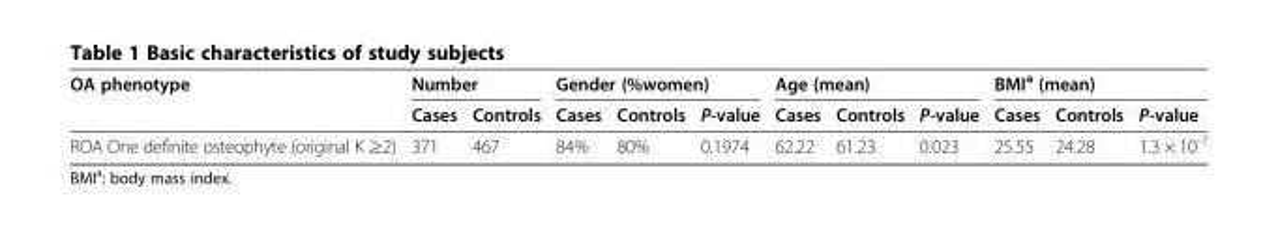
<table><thead><tr><td rowspan="2">OA phenotype</td><td colspan="2">Number</td><td colspan="3">Gender (%women)</td><td colspan="3">Age (mean)</td><td colspan="3">BMI<sup>a</sup> (mean)</td></tr><tr><td>Cases</td><td>Controls</td><td>Cases</td><td>Controls</td><td>P-value</td><td>Cases</td><td>Controls</td><td>P-value</td><td>Cases</td><td>Controls</td><td>P-value</td></tr></thead><tbody><tr><td>ROA One definite osteophyte (original K ≥2)</td><td>371</td><td>467</td><td>84%</td><td>80%</td><td>0.1974</td><td>62.22</td><td>61.23</td><td>0.023</td><td>25.55</td><td>24.28</td><td>1.3 × 10<sup>-7</sup></td></tr></tbody></table>